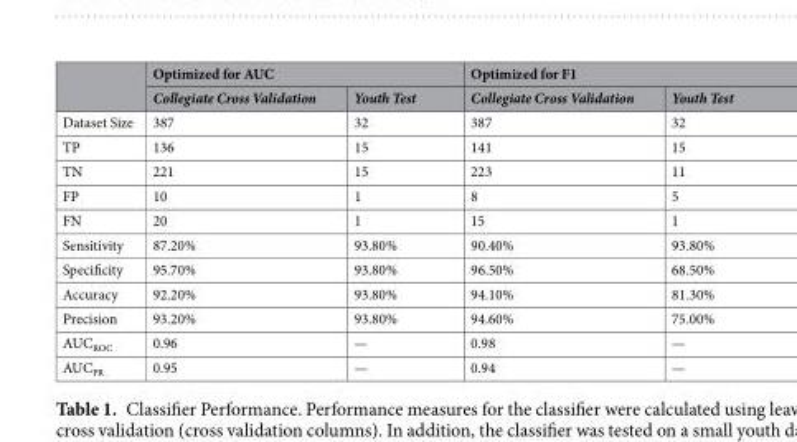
<table><thead><tr><td rowspan="2"></td><td colspan="2">Optimized for AUC</td><td colspan="2">Optimized for F1</td></tr><tr><td>Collegiate Cross Validation</td><td>Youth Test</td><td>Collegiate Cross Validation</td><td>Youth Test</td></tr></thead><tbody><tr><td>Dataset Size</td><td>387</td><td>32</td><td>387</td><td>32</td></tr><tr><td>TP</td><td>136</td><td>15</td><td>141</td><td>15</td></tr><tr><td>TN</td><td>221</td><td>15</td><td>223</td><td>11</td></tr><tr><td>FP</td><td>10</td><td>1</td><td>8</td><td>5</td></tr><tr><td>FN</td><td>20</td><td>1</td><td>15</td><td>1</td></tr><tr><td>Sensitivity</td><td>87.20%</td><td>93.80%</td><td>90.40%</td><td>93.80%</td></tr><tr><td>Specificity</td><td>95.70%</td><td>93.80%</td><td>96.50%</td><td>68.50%</td></tr><tr><td>Accuracy</td><td>92.20%</td><td>93.80%</td><td>94.10%</td><td>81.30%</td></tr><tr><td>Precision</td><td>93.20%</td><td>93.80%</td><td>94.60%</td><td>75.00%</td></tr><tr><td>AUC<sub>ROC</sub></td><td>0.96</td><td>—</td><td>0.98</td><td>—</td></tr><tr><td>AUC<sub>PR</sub></td><td>0.95</td><td>—</td><td>0.94</td><td>—</td></tr></tbody></table>